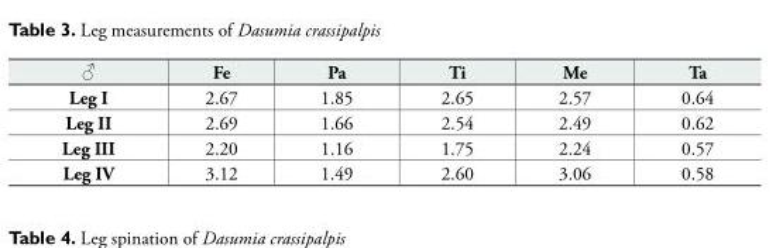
<table><tbody><tr><td>♂</td><td>Fe</td><td>Pa</td><td>Ti</td><td>Me</td><td>Ta</td></tr><tr><td>Leg I</td><td>2.67</td><td>1.85</td><td>2.65</td><td>2.57</td><td>0.64</td></tr><tr><td>Leg II</td><td>2.69</td><td>1.66</td><td>2.54</td><td>2.49</td><td>0.62</td></tr><tr><td>Leg III</td><td>2.20</td><td>1.16</td><td>1.75</td><td>2.24</td><td>0.57</td></tr><tr><td>Leg IV</td><td>3.12</td><td>1.49</td><td>2.60</td><td>3.06</td><td>0.58</td></tr></tbody></table>